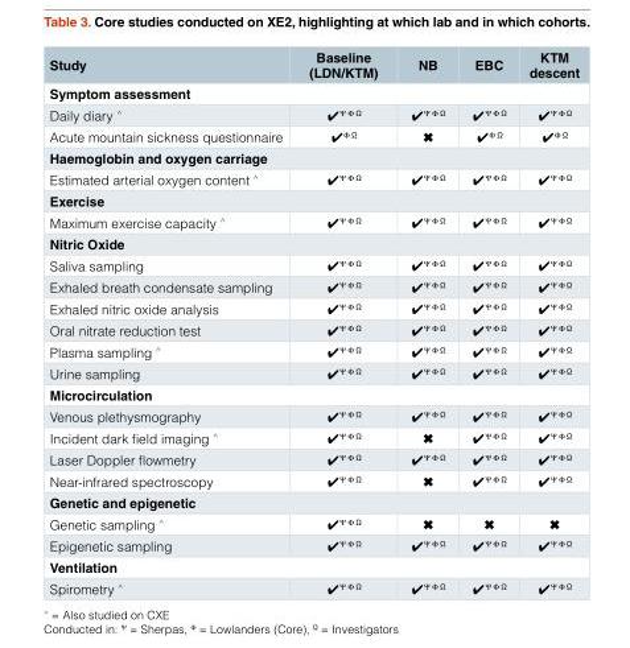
<table><thead><tr><td>Study</td><td>Baseline (LDN/KTM)</td><td>NB</td><td>EBC</td><td>KTM descent</td></tr></thead><tbody><tr><td colspan="5">Symptom assessment</td></tr><tr><td>Daily diary <sup>^</sup></td><td>✔<sup>Ψ Φ Ω</sup></td><td>✔<sup>Ψ Φ Ω</sup></td><td>✔<sup>Ψ Φ Ω</sup></td><td>✔<sup>Ψ Φ Ω</sup></td></tr><tr><td>Acute mountain sickness questionnaire</td><td>✔<sup>Φ Ω</sup></td><td>✖</td><td>✔<sup>Φ Ω</sup></td><td>✔<sup>Φ Ω</sup></td></tr><tr><td colspan="5">Haemoglobin and oxygen carriage</td></tr><tr><td>Estimated arterial oxygen content <sup>^</sup></td><td>✔<sup>Ψ Φ Ω</sup></td><td>✔<sup>Ψ Φ Ω</sup></td><td>✔<sup>Ψ Φ Ω</sup></td><td>✔<sup>Ψ Φ Ω</sup></td></tr><tr><td colspan="5">Exercise</td></tr><tr><td>Maximum exercise capacity <sup>^</sup></td><td>✔<sup>Ψ Φ Ω</sup></td><td>✔<sup>Ψ Φ Ω</sup></td><td>✔<sup>Ψ Φ Ω</sup></td><td>✔<sup>Ψ Φ Ω</sup></td></tr><tr><td colspan="5">Nitric Oxide</td></tr><tr><td>Saliva sampling</td><td>✔<sup>Ψ Φ Ω</sup></td><td>✔<sup>Ψ Φ Ω</sup></td><td>✔<sup>Ψ Φ Ω</sup></td><td>✔<sup>Ψ Φ Ω</sup></td></tr><tr><td>Exhaled breath condensate sampling</td><td>✔<sup>Ψ Φ Ω</sup></td><td>✔<sup>Ψ Φ Ω</sup></td><td>✔<sup>Ψ Φ Ω</sup></td><td>✔<sup>Ψ Φ Ω</sup></td></tr><tr><td>Exhaled nitric oxide analysis</td><td>✔<sup>Ψ Φ Ω</sup></td><td>✔<sup>Ψ Φ Ω</sup></td><td>✔<sup>Ψ Φ Ω</sup></td><td>✔<sup>Ψ Φ Ω</sup></td></tr><tr><td>Oral nitrate reduction test</td><td>✔<sup>Ψ Φ Ω</sup></td><td>✔<sup>Ψ Φ Ω</sup></td><td>✔<sup>Ψ Φ Ω</sup></td><td>✔<sup>Ψ Φ Ω</sup></td></tr><tr><td>Plasma sampling <sup>^</sup></td><td>✔<sup>Ψ Φ Ω</sup></td><td>✔<sup>Ψ Φ Ω</sup></td><td>✔<sup>Ψ Φ Ω</sup></td><td>✔<sup>Ψ Φ Ω</sup></td></tr><tr><td>Urine sampling</td><td>✔<sup>Ψ Φ Ω</sup></td><td>✔<sup>Ψ Φ Ω</sup></td><td>✔<sup>Ψ Φ Ω</sup></td><td>✔<sup>Ψ Φ Ω</sup></td></tr><tr><td colspan="5">Microcirculation</td></tr><tr><td>Venous plethysmography</td><td>✔<sup>Ψ Φ Ω</sup></td><td>✔<sup>Ψ Φ Ω</sup></td><td>✔<sup>Ψ Φ Ω</sup></td><td>✔<sup>Ψ Φ Ω</sup></td></tr><tr><td>Incident dark field imaging <sup>^</sup></td><td>✔<sup>Ψ Φ Ω</sup></td><td>✖</td><td>✔<sup>Ψ Φ Ω</sup></td><td>✔<sup>Ψ Φ Ω</sup></td></tr><tr><td>Laser Doppler flowmetry</td><td>✔<sup>Ψ Φ Ω</sup></td><td>✔<sup>Ψ Φ Ω</sup></td><td>✔<sup>Ψ Φ Ω</sup></td><td>✔<sup>Ψ Φ Ω</sup></td></tr><tr><td>Near-infrared spectroscopy</td><td>✔<sup>Ψ Φ Ω</sup></td><td>✖</td><td>✔<sup>Ψ Φ Ω</sup></td><td>✔<sup>Ψ Φ Ω</sup></td></tr><tr><td colspan="5">Genetic and epigenetic</td></tr><tr><td>Genetic sampling <sup>^</sup></td><td>✔<sup>Ψ Φ Ω</sup></td><td>✖</td><td>✖</td><td>✖</td></tr><tr><td>Epigenetic sampling</td><td>✔<sup>Ψ Φ Ω</sup></td><td>✔<sup>Ψ Φ Ω</sup></td><td>✔<sup>Ψ Φ Ω</sup></td><td>✔<sup>Ψ Φ Ω</sup></td></tr><tr><td colspan="5">Ventilation</td></tr><tr><td>Spirometry <sup>^</sup></td><td>✔<sup>Ψ Φ Ω</sup></td><td>✔<sup>Ψ Φ Ω</sup></td><td>✔<sup>Ψ Φ Ω</sup></td><td>✔<sup>Ψ Φ Ω</sup></td></tr></tbody></table>